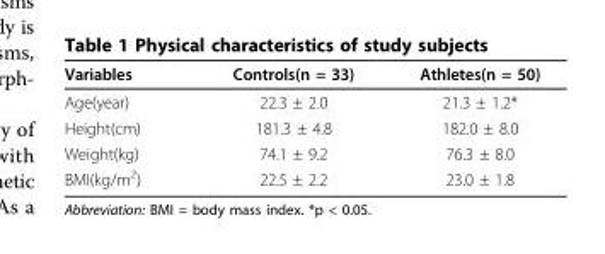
<table><thead><tr><td>Variables</td><td>Controls(n = 33)</td><td>Athletes(n = 50)</td></tr></thead><tbody><tr><td>Age(year)</td><td>22.3 ± 2.0</td><td>21.3 ± 1.2*</td></tr><tr><td>Height(cm)</td><td>181.3 ± 4.8</td><td>182.0 ± 8.0</td></tr><tr><td>Weight(kg)</td><td>74.1 ± 9.2</td><td>76.3 ± 8.0</td></tr><tr><td>BMI(kg/m<sup>2</sup>)</td><td>22.5 ± 2.2</td><td>23.0 ± 1.8</td></tr></tbody></table>